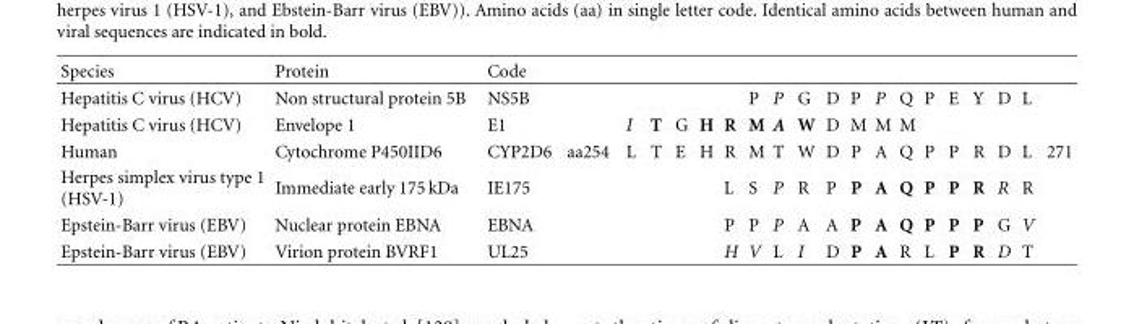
<table><thead><tr><td>Species</td><td>Protein</td><td>Code</td><td></td><td></td><td></td><td></td><td></td><td></td><td></td><td></td><td></td><td></td><td></td><td></td><td></td><td></td><td></td><td></td><td></td><td></td><td></td></tr></thead><tbody><tr><td>Hepatitis C virus (HCV)</td><td>Non structural protein 5B</td><td>NS5B</td><td></td><td></td><td></td><td></td><td></td><td></td><td>P</td><td>P</td><td>G</td><td>D</td><td>P</td><td>P</td><td>Q</td><td>P</td><td>E</td><td>Y</td><td>D</td><td>L</td><td></td></tr><tr><td>Hepatitis C virus (HCV)</td><td>Envelope 1</td><td>E1</td><td></td><td>I</td><td>T</td><td>G</td><td>H</td><td>R</td><td>M</td><td>A</td><td>W</td><td>D</td><td>M</td><td>M</td><td>M</td><td></td><td></td><td></td><td></td><td></td><td></td></tr><tr><td>Human</td><td>Cytochrome P450IID6</td><td>CYP2D6</td><td>aa254</td><td>L</td><td>T</td><td>E</td><td>H</td><td>R</td><td>M</td><td>T</td><td>W</td><td>D</td><td>P</td><td>A</td><td>Q</td><td>P</td><td>P</td><td>R</td><td>D</td><td>L</td><td>271</td></tr><tr><td>Herpes simplex virus type 1 (HSV-1)</td><td>Immediate early 175 kDa</td><td>IE175</td><td></td><td></td><td></td><td></td><td></td><td>L</td><td>S</td><td>P</td><td>R</td><td>P</td><td>P</td><td>A</td><td>Q</td><td>P</td><td>P</td><td>R</td><td>R</td><td>R</td><td></td></tr><tr><td>Epstein-Barr virus (EBV)</td><td>Nuclear protein EBNA</td><td>EBNA</td><td></td><td></td><td></td><td></td><td></td><td>P</td><td>P</td><td>P</td><td>A</td><td>A</td><td>P</td><td>A</td><td>Q</td><td>P</td><td>P</td><td>P</td><td>G</td><td>V</td><td></td></tr><tr><td>Epstein-Barr virus (EBV)</td><td>Virion protein BVRF1</td><td>UL25</td><td></td><td></td><td></td><td></td><td></td><td>H</td><td>V</td><td>L</td><td>I</td><td>D</td><td>P</td><td>A</td><td>R</td><td>L</td><td>P</td><td>R</td><td>D</td><td>T</td><td></td></tr></tbody></table>